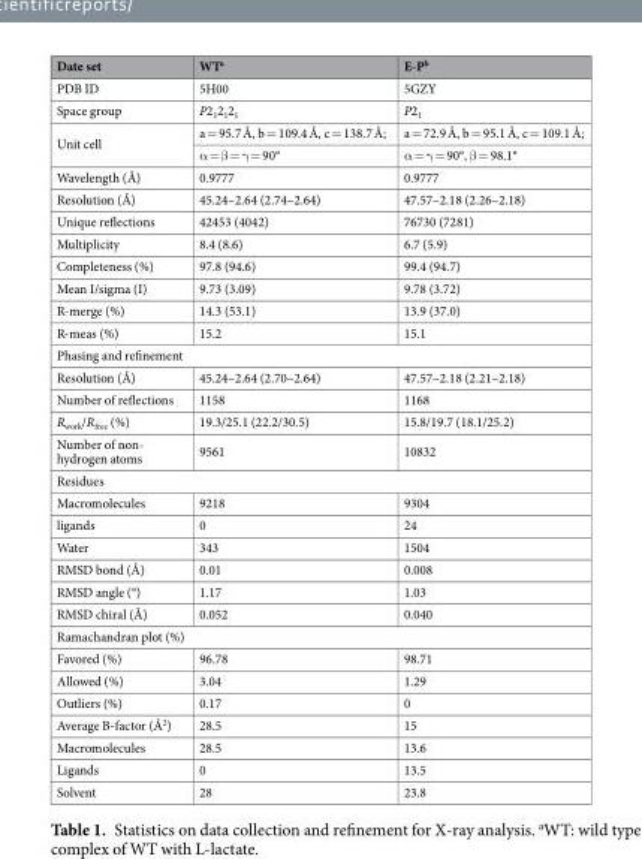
<table><thead><tr><td>Date set</td><td>WT<sup>a</sup></td><td>E-P<sup>b</sup></td></tr></thead><tbody><tr><td>PDB ID</td><td>5H00</td><td>5GZY</td></tr><tr><td>Space group</td><td>P2<sub>1</sub>2<sub>1</sub>2<sub>1</sub></td><td>P2<sub>1</sub></td></tr><tr><td rowspan="2">Unit cell</td><td>a = 95.7 Å, b = 109.4 Å, c = 138.7 Å;</td><td>a = 72.9 Å, b = 95.1 Å, c = 109.1 Å;</td></tr><tr><td>α = β = γ = 90°</td><td>α = γ = 90°, β = 98.1°</td></tr><tr><td>Wavelength (Å)</td><td>0.9777</td><td>0.9777</td></tr><tr><td>Resolution (Å)</td><td>45.24–2.64 (2.74–2.64)</td><td>47.57–2.18 (2.26–2.18)</td></tr><tr><td>Unique reflections</td><td>42453 (4042)</td><td>76730 (7281)</td></tr><tr><td>Multiplicity</td><td>8.4 (8.6)</td><td>6.7 (5.9)</td></tr><tr><td>Completeness (%)</td><td>97.8 (94.6)</td><td>99.4 (94.7)</td></tr><tr><td>Mean I/sigma (I)</td><td>9.73 (3.09)</td><td>9.78 (3.72)</td></tr><tr><td>R-merge (%)</td><td>14.3 (53.1)</td><td>13.9 (37.0)</td></tr><tr><td>R-meas (%)</td><td>15.2</td><td>15.1</td></tr><tr><td colspan="3">Phasing and refinement</td></tr><tr><td>Resolution (Å)</td><td>45.24–2.64 (2.70–2.64)</td><td>47.57–2.18 (2.21–2.18)</td></tr><tr><td>Number of reflections</td><td>1158</td><td>1168</td></tr><tr><td>R<sub>work</sub>/R<sub>free</sub> (%)</td><td>19.3/25.1 (22.2/30.5)</td><td>15.8/19.7 (18.1/25.2)</td></tr><tr><td>Number of non- hydrogen atoms</td><td>9561</td><td>10832</td></tr><tr><td colspan="3">Residues</td></tr><tr><td>Macromolecules</td><td>9218</td><td>9304</td></tr><tr><td>ligands</td><td>0</td><td>24</td></tr><tr><td>Water</td><td>343</td><td>1504</td></tr><tr><td>RMSD bond (Å)</td><td>0.01</td><td>0.008</td></tr><tr><td>RMSD angle (°)</td><td>1.17</td><td>1.03</td></tr><tr><td>RMSD chiral (Å)</td><td>0.052</td><td>0.040</td></tr><tr><td colspan="3">Ramachandran plot (%)</td></tr><tr><td>Favored (%)</td><td>96.78</td><td>98.71</td></tr><tr><td>Allowed (%)</td><td>3.04</td><td>1.29</td></tr><tr><td>Outliers (%)</td><td>0.17</td><td>0</td></tr><tr><td>Average B-factor (Å<sup>2</sup>)</td><td>28.5</td><td>15</td></tr><tr><td>Macromolecules</td><td>28.5</td><td>13.6</td></tr><tr><td>Ligands</td><td>0</td><td>13.5</td></tr><tr><td>Solvent</td><td>28</td><td>23.8</td></tr></tbody></table>